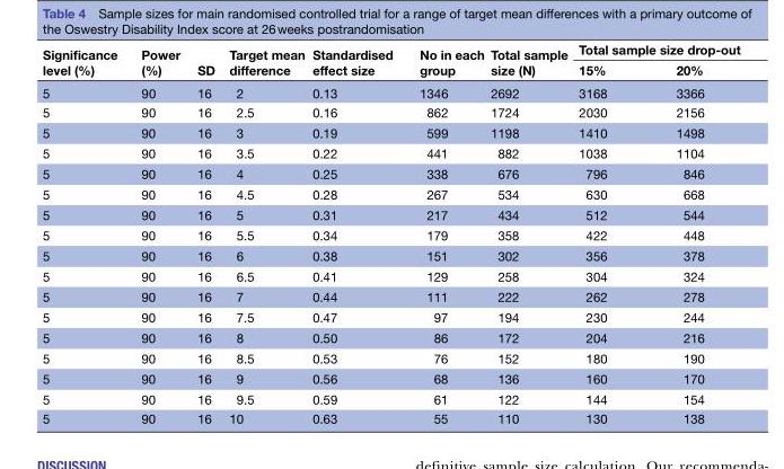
<table><thead><tr><td rowspan="2">Significance level (%)</td><td rowspan="2">Power (%)</td><td rowspan="2">SD</td><td rowspan="2">Target mean difference</td><td rowspan="2">Standardised effect size</td><td rowspan="2">No in each group</td><td rowspan="2">Total sample size (N)</td><td colspan="2">Total sample size drop-out</td></tr><tr><td>15%</td><td>20%</td></tr></thead><tbody><tr><td>5</td><td>90</td><td>16</td><td>2</td><td>0.13</td><td>1346</td><td>2692</td><td>3168</td><td>3366</td></tr><tr><td>5</td><td>90</td><td>16</td><td>2.5</td><td>0.16</td><td>862</td><td>1724</td><td>2030</td><td>2156</td></tr><tr><td>5</td><td>90</td><td>16</td><td>3</td><td>0.19</td><td>599</td><td>1198</td><td>1410</td><td>1498</td></tr><tr><td>5</td><td>90</td><td>16</td><td>3.5</td><td>0.22</td><td>441</td><td>882</td><td>1038</td><td>1104</td></tr><tr><td>5</td><td>90</td><td>16</td><td>4</td><td>0.25</td><td>338</td><td>676</td><td>796</td><td>846</td></tr><tr><td>5</td><td>90</td><td>16</td><td>4.5</td><td>0.28</td><td>267</td><td>534</td><td>630</td><td>668</td></tr><tr><td>5</td><td>90</td><td>16</td><td>5</td><td>0.31</td><td>217</td><td>434</td><td>512</td><td>544</td></tr><tr><td>5</td><td>90</td><td>16</td><td>5.5</td><td>0.34</td><td>179</td><td>358</td><td>422</td><td>448</td></tr><tr><td>5</td><td>90</td><td>16</td><td>6</td><td>0.38</td><td>151</td><td>302</td><td>356</td><td>378</td></tr><tr><td>5</td><td>90</td><td>16</td><td>6.5</td><td>0.41</td><td>129</td><td>258</td><td>304</td><td>324</td></tr><tr><td>5</td><td>90</td><td>16</td><td>7</td><td>0.44</td><td>111</td><td>222</td><td>262</td><td>278</td></tr><tr><td>5</td><td>90</td><td>16</td><td>7.5</td><td>0.47</td><td>97</td><td>194</td><td>230</td><td>244</td></tr><tr><td>5</td><td>90</td><td>16</td><td>8</td><td>0.50</td><td>86</td><td>172</td><td>204</td><td>216</td></tr><tr><td>5</td><td>90</td><td>16</td><td>8.5</td><td>0.53</td><td>76</td><td>152</td><td>180</td><td>190</td></tr><tr><td>5</td><td>90</td><td>16</td><td>9</td><td>0.56</td><td>68</td><td>136</td><td>160</td><td>170</td></tr><tr><td>5</td><td>90</td><td>16</td><td>9.5</td><td>0.59</td><td>61</td><td>122</td><td>144</td><td>154</td></tr><tr><td>5</td><td>90</td><td>16</td><td>10</td><td>0.63</td><td>55</td><td>110</td><td>130</td><td>138</td></tr></tbody></table>